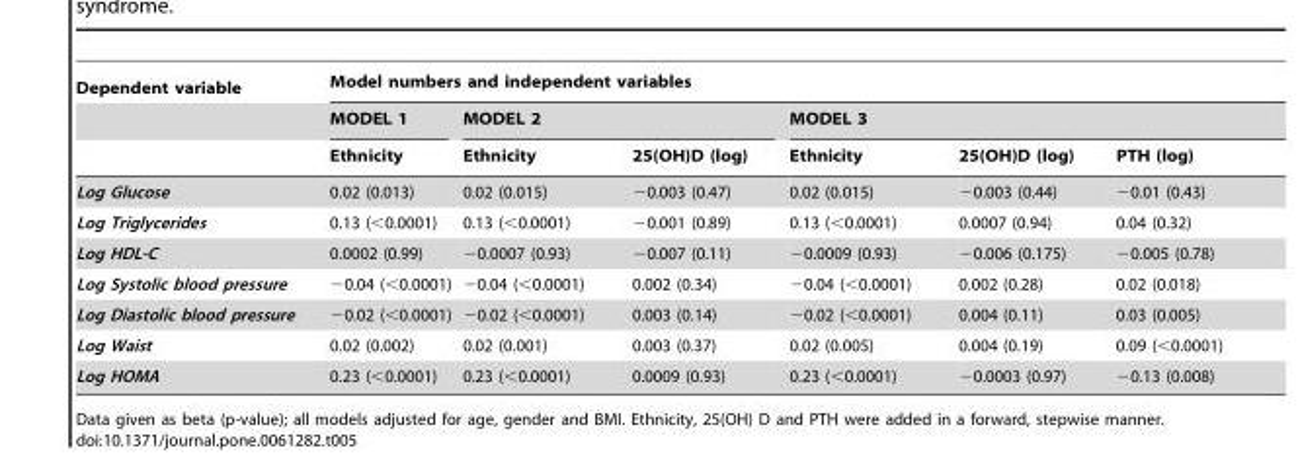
<table><thead><tr><td rowspan="3">Dependent variable</td><td colspan="6">Model numbers and independent variables</td></tr><tr><td rowspan="2">MODEL 1 Ethnicity</td><td colspan="2">MODEL 2</td><td colspan="3">MODEL 3</td></tr><tr><td>Ethnicity</td><td>25(OH)D (log)</td><td>Ethnicity</td><td>25(OH)D (log)</td><td>PTH (log)</td></tr></thead><tbody><tr><td>Log Glucose</td><td>0.02 (0.013)</td><td>0.02 (0.015)</td><td>−0.003 (0.47)</td><td>0.02 (0.015)</td><td>−0.003 (0.44)</td><td>−0.01 (0.43)</td></tr><tr><td>Log Triglycerides</td><td>0.13 (&lt;0.0001)</td><td>0.13 (&lt;0.0001)</td><td>−0.001 (0.89)</td><td>0.13 (&lt;0.0001)</td><td>0.0007 (0.94)</td><td>0.04 (0.32)</td></tr><tr><td>Log HDL-C</td><td>0.0002 (0.99)</td><td>−0.0007 (0.93)</td><td>−0.007 (0.11)</td><td>−0.0009 (0.93)</td><td>−0.006 (0.175)</td><td>−0.005 (0.78)</td></tr><tr><td>Log Systolic blood pressure</td><td>−0.04 (&lt;0.0001)</td><td>−0.04 (&lt;0.0001)</td><td>0.002 (0.34)</td><td>−0.04 (&lt;0.0001)</td><td>0.002 (0.28)</td><td>0.02 (0.018)</td></tr><tr><td>Log Diastolic blood pressure</td><td>−0.02 (&lt;0.0001)</td><td>−0.02 (&lt;0.0001)</td><td>0.003 (0.14)</td><td>−0.02 (&lt;0.0001)</td><td>0.004 (0.11)</td><td>0.03 (0.005)</td></tr><tr><td>Log Waist</td><td>0.02 (0.002)</td><td>0.02 (0.001)</td><td>0.003 (0.37)</td><td>0.02 (0.005)</td><td>0.004 (0.19)</td><td>0.09 (&lt;0.0001)</td></tr><tr><td>Log HOMA</td><td>0.23 (&lt;0.0001)</td><td>0.23 (&lt;0.0001)</td><td>0.0009 (0.93)</td><td>0.23 (&lt;0.0001)</td><td>−0.0003 (0.97)</td><td>−0.13 (0.008)</td></tr></tbody></table>